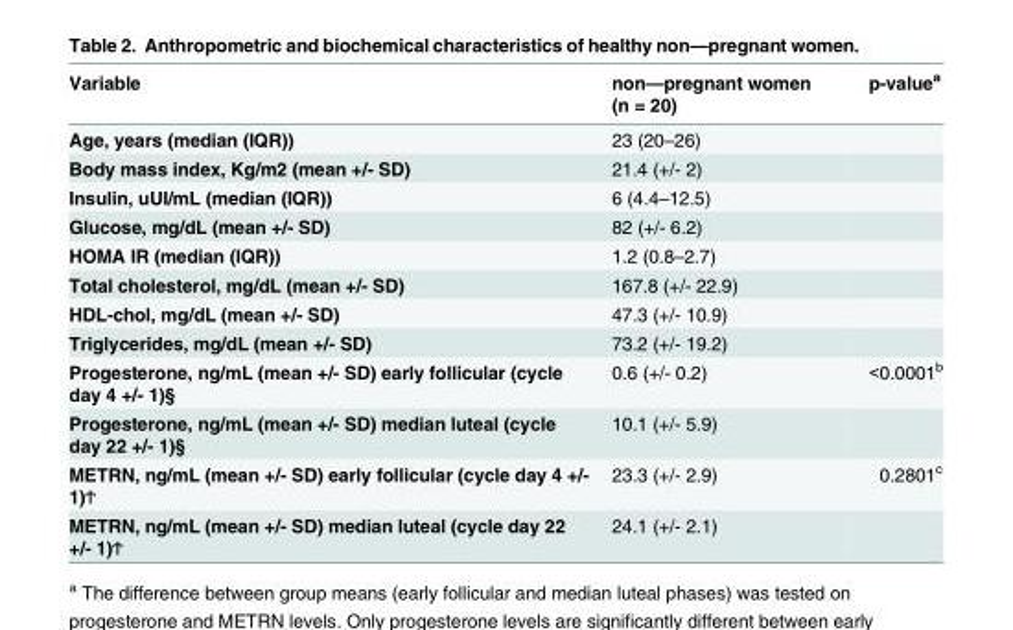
<table><thead><tr><td>Variable</td><td>non—pregnant women (n = 20)</td><td>p-value<sup>a</sup></td></tr></thead><tbody><tr><td>Age, years (median (IQR))</td><td>23 (20–26)</td><td></td></tr><tr><td>Body mass index, Kg/m2 (mean +/- SD)</td><td>21.4 (+/- 2)</td><td></td></tr><tr><td>Insulin, uUI/mL (median (IQR))</td><td>6 (4.4–12.5)</td><td></td></tr><tr><td>Glucose, mg/dL (mean +/- SD)</td><td>82 (+/- 6.2)</td><td></td></tr><tr><td>HOMA IR (median (IQR))</td><td>1.2 (0.8–2.7)</td><td></td></tr><tr><td>Total cholesterol, mg/dL (mean +/- SD)</td><td>167.8 (+/- 22.9)</td><td></td></tr><tr><td>HDL-chol, mg/dL (mean +/- SD)</td><td>47.3 (+/- 10.9)</td><td></td></tr><tr><td>Triglycerides, mg/dL (mean +/- SD)</td><td>73.2 (+/- 19.2)</td><td></td></tr><tr><td>Progesterone, ng/mL (mean +/- SD) early follicular (cycle day 4 +/- 1)§</td><td>0.6 (+/- 0.2)</td><td>&lt;0.0001<sup>b</sup></td></tr><tr><td>Progesterone, ng/mL (mean +/- SD) median luteal (cycle day 22 +/- 1)§</td><td>10.1 (+/- 5.9)</td><td></td></tr><tr><td>METRN, ng/mL (mean +/- SD) early follicular (cycle day 4 +/- 1)Ϯ</td><td>23.3 (+/- 2.9)</td><td>0.2801<sup>c</sup></td></tr><tr><td>METRN, ng/mL (mean +/- SD) median luteal (cycle day 22 +/- 1)Ϯ</td><td>24.1 (+/- 2.1)</td><td></td></tr></tbody></table>